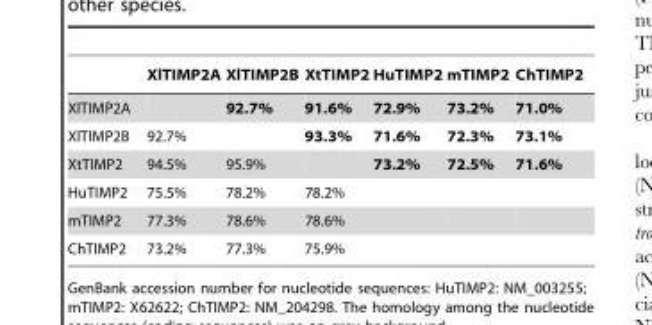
<table><thead><tr><td></td><td>XlTIMP2A</td><td>XlTIMP2B</td><td>XtTIMP2</td><td>HuTIMP2</td><td>mTIMP2</td><td>ChTIMP2</td></tr></thead><tbody><tr><td>XlTIMP2A</td><td></td><td>92.7%</td><td>91.6%</td><td>72.9%</td><td>73.2%</td><td>71.0%</td></tr><tr><td>XlTIMP2B</td><td>92.7%</td><td></td><td>93.3%</td><td>71.6%</td><td>72.3%</td><td>73.1%</td></tr><tr><td>XtTIMP2</td><td>94.5%</td><td>95.9%</td><td></td><td>73.2%</td><td>72.5%</td><td>71.6%</td></tr><tr><td>HuTIMP2</td><td>75.5%</td><td>78.2%</td><td>78.2%</td><td></td><td></td><td></td></tr><tr><td>mTIMP2</td><td>77.3%</td><td>78.6%</td><td>78.6%</td><td></td><td></td><td></td></tr><tr><td>ChTIMP2</td><td>73.2%</td><td>77.3%</td><td>75.9%</td><td></td><td></td><td></td></tr></tbody></table>